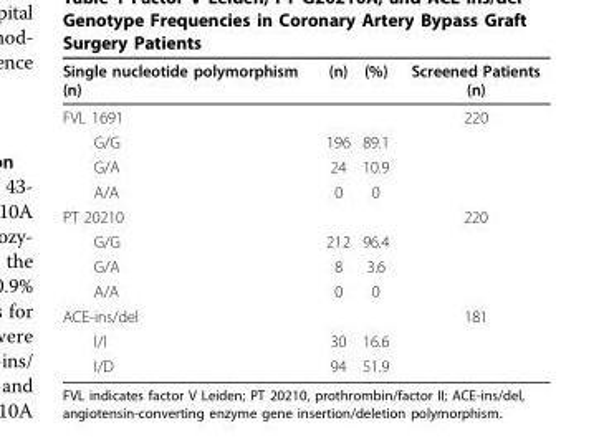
<table><thead><tr><td>Single nucleotide polymorphism (n)</td><td>(n)</td><td>(%)</td><td>Screened Patients (n)</td></tr></thead><tbody><tr><td>FVL 1691</td><td></td><td></td><td>220</td></tr><tr><td>G/G</td><td>196</td><td>89.1</td><td></td></tr><tr><td>G/A</td><td>24</td><td>10.9</td><td></td></tr><tr><td>A/A</td><td>0</td><td>0</td><td></td></tr><tr><td>PT 20210</td><td></td><td></td><td>220</td></tr><tr><td>G/G</td><td>212</td><td>96.4</td><td></td></tr><tr><td>G/A</td><td>8</td><td>3.6</td><td></td></tr><tr><td>A/A</td><td>0</td><td>0</td><td></td></tr><tr><td>ACE-ins/del</td><td></td><td></td><td>181</td></tr><tr><td>I/I</td><td>30</td><td>16.6</td><td></td></tr><tr><td>I/D</td><td>94</td><td>51.9</td><td></td></tr></tbody></table>